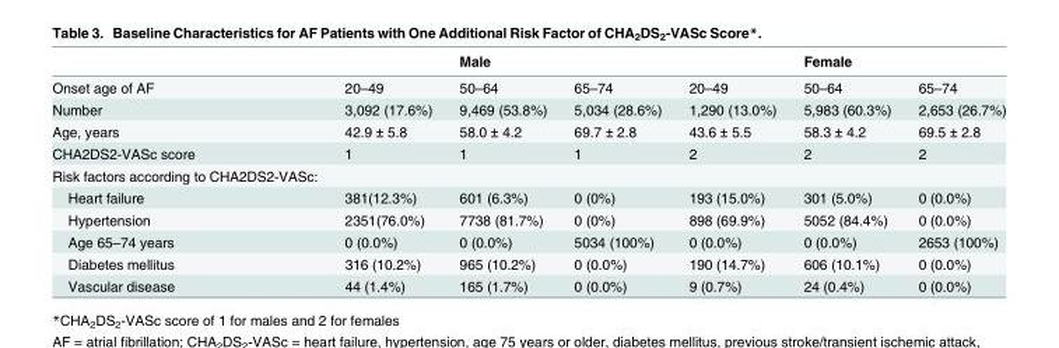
<table><thead><tr><td></td><td></td><td>Male</td><td></td><td></td><td>Female</td><td></td></tr></thead><tbody><tr><td>Onset age of AF</td><td>20–49</td><td>50–64</td><td>65–74</td><td>20–49</td><td>50–64</td><td>65–74</td></tr><tr><td>Number</td><td>3,092 (17.6%)</td><td>9,469 (53.8%)</td><td>5,034 (28.6%)</td><td>1,290 (13.0%)</td><td>5,983 (60.3%)</td><td>2,653 (26.7%)</td></tr><tr><td>Age, years</td><td>42.9 ± 5.8</td><td>58.0 ± 4.2</td><td>69.7 ± 2.8</td><td>43.6 ± 5.5</td><td>58.3 ± 4.2</td><td>69.5 ± 2.8</td></tr><tr><td>CHA2DS2-VASc score</td><td>1</td><td>1</td><td>1</td><td>2</td><td>2</td><td>2</td></tr><tr><td colspan="7">Risk factors according to CHA2DS2-VASc:</td></tr><tr><td>Heart failure</td><td>381(12.3%)</td><td>601 (6.3%)</td><td>0 (0%)</td><td>193 (15.0%)</td><td>301 (5.0%)</td><td>0 (0.0%)</td></tr><tr><td>Hypertension</td><td>2351(76.0%)</td><td>7738 (81.7%)</td><td>0 (0%)</td><td>898 (69.9%)</td><td>5052 (84.4%)</td><td>0 (0.0%)</td></tr><tr><td>Age 65–74 years</td><td>0 (0.0%)</td><td>0 (0.0%)</td><td>5034 (100%)</td><td>0 (0.0%)</td><td>0 (0.0%)</td><td>2653 (100%)</td></tr><tr><td>Diabetes mellitus</td><td>316 (10.2%)</td><td>965 (10.2%)</td><td>0 (0.0%)</td><td>190 (14.7%)</td><td>606 (10.1%)</td><td>0 (0.0%)</td></tr><tr><td>Vascular disease</td><td>44 (1.4%)</td><td>165 (1.7%)</td><td>0 (0.0%)</td><td>9 (0.7%)</td><td>24 (0.4%)</td><td>0 (0.0%)</td></tr></tbody></table>